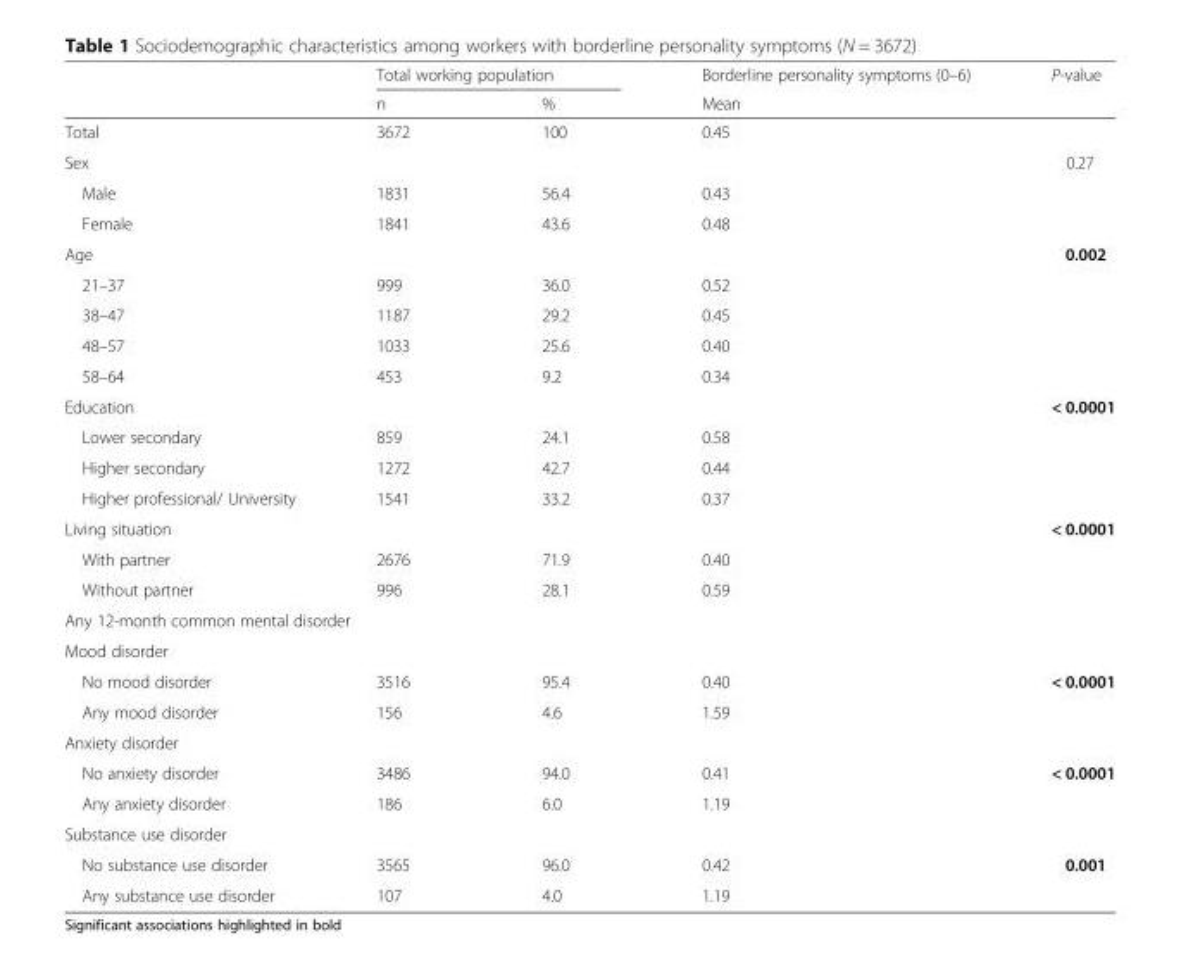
<table><thead><tr><td rowspan="2"></td><td colspan="2">Total working population</td><td rowspan="2">Borderline personality symptoms (0–6) Mean</td><td rowspan="2">P-value</td></tr><tr><td>n</td><td>%</td></tr></thead><tbody><tr><td>Total</td><td>3672</td><td>100</td><td>0.45</td><td></td></tr><tr><td>Sex</td><td></td><td></td><td></td><td>0.27</td></tr><tr><td>Male</td><td>1831</td><td>56.4</td><td>0.43</td><td></td></tr><tr><td>Female</td><td>1841</td><td>43.6</td><td>0.48</td><td></td></tr><tr><td>Age</td><td></td><td></td><td></td><td>0.002</td></tr><tr><td>21–37</td><td>999</td><td>36.0</td><td>0.52</td><td></td></tr><tr><td>38–47</td><td>1187</td><td>29.2</td><td>0.45</td><td></td></tr><tr><td>48–57</td><td>1033</td><td>25.6</td><td>0.40</td><td></td></tr><tr><td>58–64</td><td>453</td><td>9.2</td><td>0.34</td><td></td></tr><tr><td>Education</td><td></td><td></td><td></td><td>&lt; 0.0001</td></tr><tr><td>Lower secondary</td><td>859</td><td>24.1</td><td>0.58</td><td></td></tr><tr><td>Higher secondary</td><td>1272</td><td>42.7</td><td>0.44</td><td></td></tr><tr><td>Higher professional/ University</td><td>1541</td><td>33.2</td><td>0.37</td><td></td></tr><tr><td>Living situation</td><td></td><td></td><td></td><td>&lt; 0.0001</td></tr><tr><td>With partner</td><td>2676</td><td>71.9</td><td>0.40</td><td></td></tr><tr><td>Without partner</td><td>996</td><td>28.1</td><td>0.59</td><td></td></tr><tr><td colspan="5">Any 12-month common mental disorder</td></tr><tr><td colspan="5">Mood disorder</td></tr><tr><td>No mood disorder</td><td>3516</td><td>95.4</td><td>0.40</td><td>&lt; 0.0001</td></tr><tr><td>Any mood disorder</td><td>156</td><td>4.6</td><td>1.59</td><td></td></tr><tr><td colspan="5">Anxiety disorder</td></tr><tr><td>No anxiety disorder</td><td>3486</td><td>94.0</td><td>0.41</td><td>&lt; 0.0001</td></tr><tr><td>Any anxiety disorder</td><td>186</td><td>6.0</td><td>1.19</td><td></td></tr><tr><td colspan="5">Substance use disorder</td></tr><tr><td>No substance use disorder</td><td>3565</td><td>96.0</td><td>0.42</td><td>0.001</td></tr><tr><td>Any substance use disorder</td><td>107</td><td>4.0</td><td>1.19</td><td></td></tr></tbody></table>